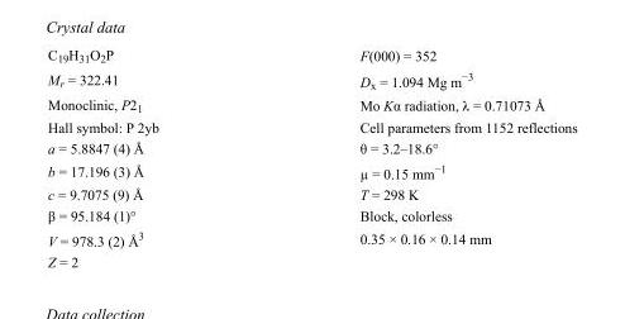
<table><tbody><tr><td>C<sub>19</sub>H<sub>31</sub>O<sub>2</sub>P</td><td>F(000) = 352</td></tr><tr><td>M<sub>r</sub> = 322.41</td><td>D<sub>x</sub> = 1.094 Mg m<sup>−3</sup></td></tr><tr><td>Monoclinic, P2<sub>1</sub></td><td>Mo Kα radiation, λ = 0.71073 Å</td></tr><tr><td>Hall symbol: P 2yb</td><td>Cell parameters from 1152 reflections</td></tr><tr><td>a = 5.8847 (4) Å</td><td>θ = 3.2–18.6°</td></tr><tr><td>b = 17.196 (3) Å</td><td>µ = 0.15 mm<sup>−1</sup></td></tr><tr><td>c = 9.7075 (9) Å</td><td>T = 298 K</td></tr><tr><td>β = 95.184 (1)°</td><td>Block, colorless</td></tr><tr><td>V = 978.3 (2) Å<sup>3</sup></td><td>0.35 × 0.16 × 0.14 mm</td></tr><tr><td>Z = 2</td><td></td></tr></tbody></table>